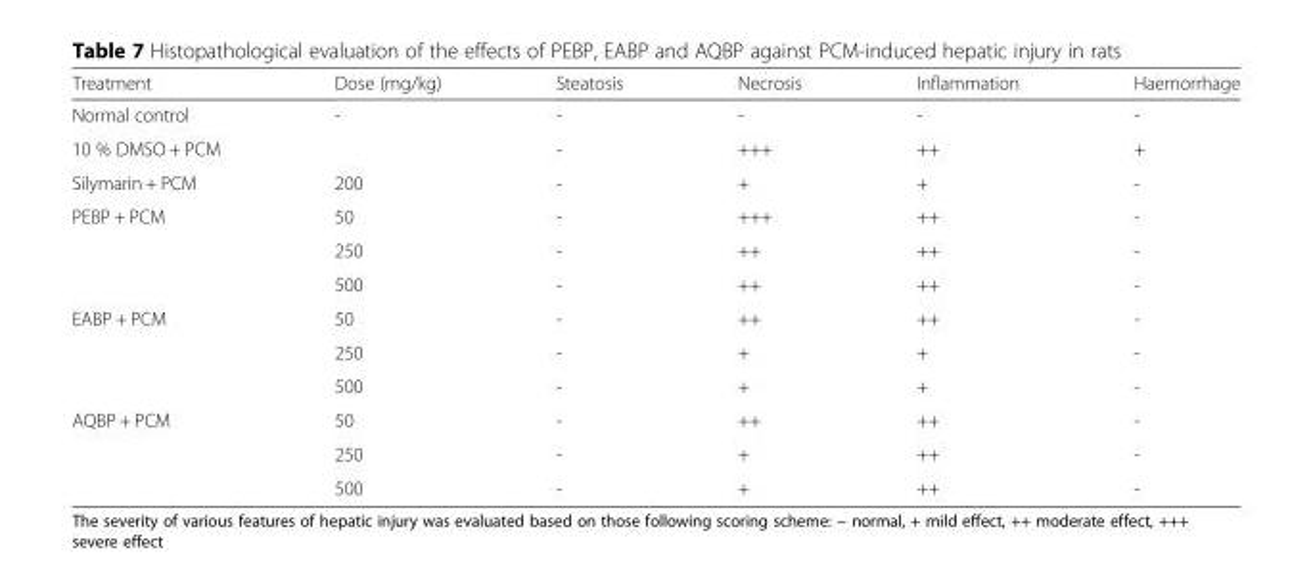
<table><thead><tr><td>Treatment</td><td>Dose (mg/kg)</td><td>Steatosis</td><td>Necrosis</td><td>Inflammation</td><td>Haemorrhage</td></tr></thead><tbody><tr><td>Normal control</td><td>-</td><td>-</td><td>-</td><td>-</td><td>-</td></tr><tr><td>10 % DMSO + PCM</td><td></td><td>-</td><td>+++</td><td>++</td><td>+</td></tr><tr><td>Silymarin + PCM</td><td>200</td><td>-</td><td>+</td><td>+</td><td>-</td></tr><tr><td rowspan="3">PEBP + PCM</td><td>50</td><td>-</td><td>+++</td><td>++</td><td>-</td></tr><tr><td>250</td><td>-</td><td>++</td><td>++</td><td>-</td></tr><tr><td>500</td><td>-</td><td>++</td><td>++</td><td>-</td></tr><tr><td rowspan="3">EABP + PCM</td><td>50</td><td>-</td><td>++</td><td>++</td><td>-</td></tr><tr><td>250</td><td>-</td><td>+</td><td>+</td><td>-</td></tr><tr><td>500</td><td>-</td><td>+</td><td>+</td><td>-</td></tr><tr><td rowspan="3">AQBP + PCM</td><td>50</td><td>-</td><td>++</td><td>++</td><td>-</td></tr><tr><td>250</td><td>-</td><td>+</td><td>++</td><td>-</td></tr><tr><td>500</td><td>-</td><td>+</td><td>++</td><td>-</td></tr></tbody></table>